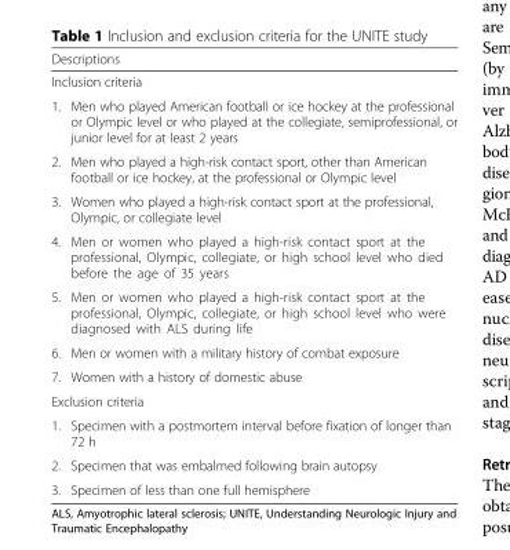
<table><thead><tr><td rowspan="2" colspan="2">Descriptions Inclusion criteria</td></tr><tr></tr><tr><td>1.</td><td>Men who played American football or ice hockey at the professional or Olympic level or who played at the collegiate, semiprofessional, or junior level for at least 2 years</td></tr></thead><tbody><tr><td>2.</td><td>Men who played a high-risk contact sport, other than American football or ice hockey, at the professional or Olympic level</td></tr><tr><td>3.</td><td>Women who played a high-risk contact sport at the professional, Olympic, or collegiate level</td></tr><tr><td>4.</td><td>Men or women who played a high-risk contact sport at the professional, Olympic, collegiate, or high school level who died before the age of 35 years</td></tr><tr><td>5.</td><td>Men or women who played a high-risk contact sport at the professional, Olympic, collegiate, or high school level who were diagnosed with ALS during life</td></tr><tr><td>6.</td><td>Men or women with a military history of combat exposure</td></tr><tr><td>7.</td><td>Women with a history of domestic abuse</td></tr><tr><td colspan="2">Exclusion criteria</td></tr><tr><td>1.</td><td>Specimen with a postmortem interval before fixation of longer than 72 h</td></tr><tr><td>2.</td><td>Specimen that was embalmed following brain autopsy</td></tr><tr><td>3.</td><td>Specimen of less than one full hemisphere</td></tr></tbody></table>